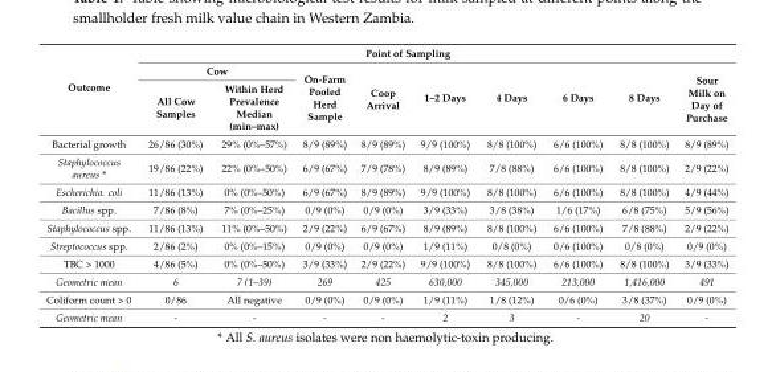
<table><thead><tr><td rowspan="3">Outcome</td><td colspan="8">Point of Sampling</td><td rowspan="3">Sour Milk on Day of Purchase</td></tr><tr><td colspan="2">Cow</td><td rowspan="2">On-Farm Pooled Herd Sample</td><td rowspan="2">Coop Arrival</td><td rowspan="2">1–2 Days</td><td rowspan="2">4 Days</td><td rowspan="2">6 Days</td><td rowspan="2">8 Days</td></tr><tr><td>All Cow Samples</td><td>Within Herd Prevalence Median (min–max)</td></tr></thead><tbody><tr><td>Bacterial growth</td><td>26/86 (30%)</td><td>29% (0%–57%)</td><td>8/9 (89%)</td><td>8/9 (89%)</td><td>9/9 (100%)</td><td>8/8 (100%)</td><td>6/6 (100%)</td><td>8/8 (100%)</td><td>8/9 (89%)</td></tr><tr><td>Staphylococcus aureus *</td><td>19/86 (22%)</td><td>22% (0%–50%)</td><td>6/9 (67%)</td><td>7/9 (78%)</td><td>8/9 (89%)</td><td>7/8 (88%)</td><td>6/6 (100%)</td><td>8/8 (100%)</td><td>2/9 (22%)</td></tr><tr><td>Escherichia. coli</td><td>11/86 (13%)</td><td>0% (0%–50%)</td><td>6/9 (67%)</td><td>8/9 (89%)</td><td>9/9 (100%)</td><td>8/8 (100%)</td><td>6/6 (100%)</td><td>8/8 (100%)</td><td>4/9 (44%)</td></tr><tr><td>Bacillus spp.</td><td>7/86 (8%)</td><td>7% (0%–25%)</td><td>0/9 (0%)</td><td>0/9 (0%)</td><td>3/9 (33%)</td><td>3/8 (38%)</td><td>1/6 (17%)</td><td>6/8 (75%)</td><td>5/9 (56%)</td></tr><tr><td>Staphylococcus spp.</td><td>11/86 (13%)</td><td>11% (0%–50%)</td><td>2/9 (22%)</td><td>6/9 (67%)</td><td>8/9 (89%)</td><td>8/8 (100%)</td><td>6/6 (100%)</td><td>7/8 (88%)</td><td>2/9 (22%)</td></tr><tr><td>Streptococcus spp.</td><td>2/86 (2%)</td><td>0% (0%–15%)</td><td>0/9 (0%)</td><td>0/9 (0%)</td><td>1/9 (11%)</td><td>0/8 (0%)</td><td>0/6 (100%)</td><td>0/8 (0%)</td><td>0/9 (0%)</td></tr><tr><td>TBC &gt; 1000</td><td>4/86 (5%)</td><td>0% (0%–50%)</td><td>3/9 (33%)</td><td>2/9 (22%)</td><td>9/9 (100%)</td><td>8/8 (100%)</td><td>6/6 (100%)</td><td>8/8 (100%)</td><td>3/9 (33%)</td></tr><tr><td>Geometric mean</td><td>6</td><td>7 (1–39)</td><td>269</td><td>425</td><td>630,000</td><td>345,000</td><td>213,000</td><td>1,416,000</td><td>491</td></tr><tr><td>Coliform count &gt; 0</td><td>0/86</td><td>All negative</td><td>0/9 (0%)</td><td>0/9 (0%)</td><td>1/9 (11%)</td><td>1/8 (12%)</td><td>0/6 (0%)</td><td>3/8 (37%)</td><td>0/9 (0%)</td></tr><tr><td>Geometric mean</td><td>-</td><td>-</td><td>-</td><td>-</td><td>2</td><td>3</td><td>-</td><td>20</td><td>-</td></tr></tbody></table>